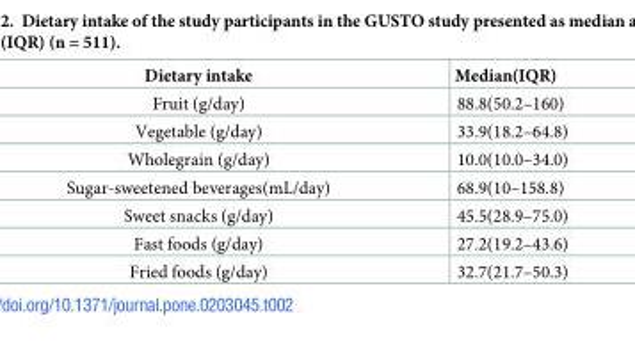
<table><thead><tr><td>Dietary intake</td><td>Median(IQR)</td></tr></thead><tbody><tr><td>Fruit (g/day)</td><td>88.8(50.2–160)</td></tr><tr><td>Vegetable (g/day)</td><td>33.9(18.2–64.8)</td></tr><tr><td>Wholegrain (g/day)</td><td>10.0(10.0–34.0)</td></tr><tr><td>Sugar-sweetened beverages(mL/day)</td><td>68.9(10–158.8)</td></tr><tr><td>Sweet snacks (g/day)</td><td>45.5(28.9–75.0)</td></tr><tr><td>Fast foods (g/day)</td><td>27.2(19.2–43.6)</td></tr><tr><td>Fried foods (g/day)</td><td>32.7(21.7–50.3)</td></tr></tbody></table>